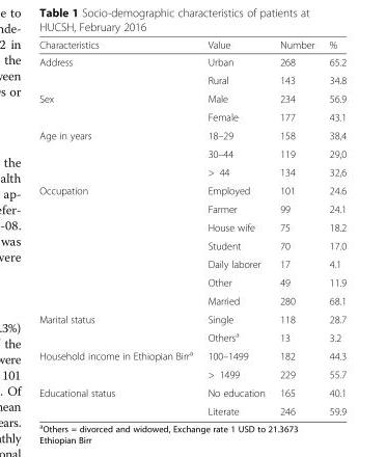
<table><thead><tr><td>Characteristics</td><td>Value</td><td>Number</td><td>%</td></tr></thead><tbody><tr><td rowspan="2">Address</td><td>Urban</td><td>268</td><td>65.2</td></tr><tr><td>Rural</td><td>143</td><td>34.8</td></tr><tr><td rowspan="2">Sex</td><td>Male</td><td>234</td><td>56.9</td></tr><tr><td>Female</td><td>177</td><td>43.1</td></tr><tr><td rowspan="3">Age in years</td><td>18–29</td><td>158</td><td>38,4</td></tr><tr><td>30–44</td><td>119</td><td>29,0</td></tr><tr><td>&gt; 44</td><td>134</td><td>32,6</td></tr><tr><td rowspan="7">Occupation</td><td>Employed</td><td>101</td><td>24.6</td></tr><tr><td>Farmer</td><td>99</td><td>24.1</td></tr><tr><td>House wife</td><td>75</td><td>18.2</td></tr><tr><td>Student</td><td>70</td><td>17.0</td></tr><tr><td>Daily laborer</td><td>17</td><td>4.1</td></tr><tr><td>Other</td><td>49</td><td>11.9</td></tr><tr><td>Married</td><td>280</td><td>68.1</td></tr><tr><td rowspan="2">Marital status</td><td>Single</td><td>118</td><td>28.7</td></tr><tr><td>Others<sup>a</sup></td><td>13</td><td>3.2</td></tr><tr><td rowspan="2">Household income in Ethiopian Birr<sup>a</sup></td><td>100–1499</td><td>182</td><td>44.3</td></tr><tr><td>&gt; 1499</td><td>229</td><td>55.7</td></tr><tr><td rowspan="2">Educational status</td><td>No education</td><td>165</td><td>40.1</td></tr><tr><td>Literate</td><td>246</td><td>59.9</td></tr></tbody></table>